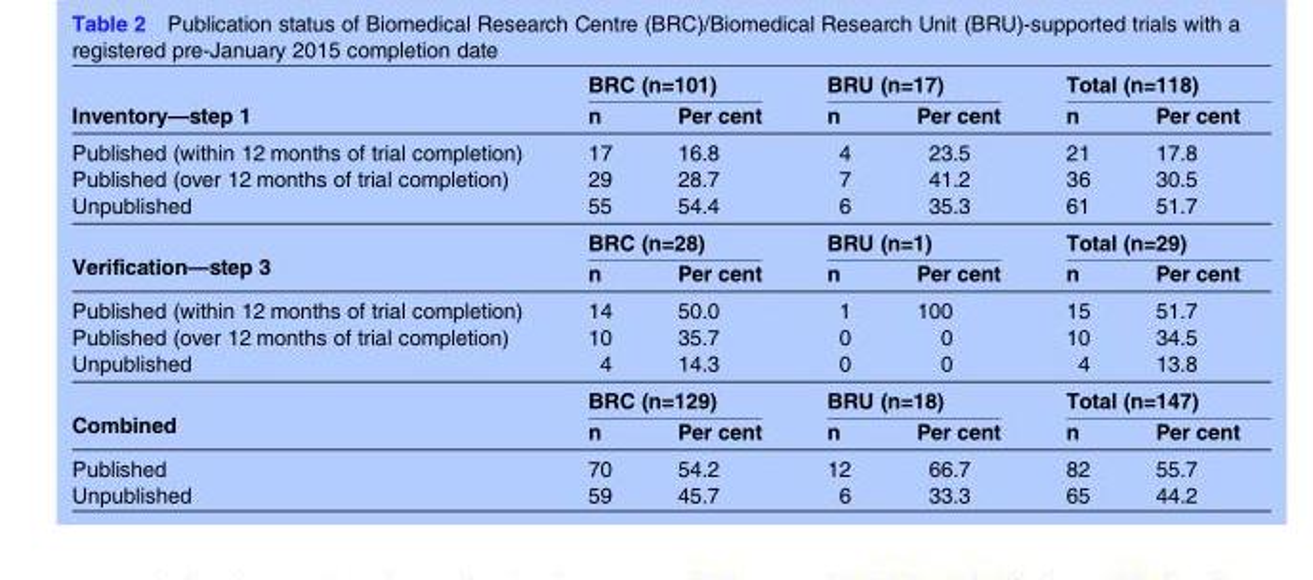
<table><thead><tr><td rowspan="2">Inventory—step 1</td><td colspan="2">BRC (n=101)</td><td colspan="2">BRU (n=17)</td><td colspan="2">Total (n=118)</td></tr><tr><td>n</td><td>Per cent</td><td>n</td><td>Per cent</td><td>n</td><td>Per cent</td></tr></thead><tbody><tr><td>Published (within 12 months of trial completion)</td><td>17</td><td>16.8</td><td>4</td><td>23.5</td><td>21</td><td>17.8</td></tr><tr><td>Published (over 12 months of trial completion)</td><td>29</td><td>28.7</td><td>7</td><td>41.2</td><td>36</td><td>30.5</td></tr><tr><td>Unpublished</td><td>55</td><td>54.4</td><td>6</td><td>35.3</td><td>61</td><td>51.7</td></tr><tr><td rowspan="2">Verification—step 3</td><td colspan="2">BRC (n=28)</td><td colspan="2">BRU (n=1)</td><td colspan="2">Total (n=29)</td></tr><tr><td>n</td><td>Per cent</td><td>n</td><td>Per cent</td><td>n</td><td>Per cent</td></tr><tr><td>Published (within 12 months of trial completion)</td><td>14</td><td>50.0</td><td>1</td><td>100</td><td>15</td><td>51.7</td></tr><tr><td>Published (over 12 months of trial completion)</td><td>10</td><td>35.7</td><td>0</td><td>0</td><td>10</td><td>34.5</td></tr><tr><td>Unpublished</td><td>4</td><td>14.3</td><td>0</td><td>0</td><td>4</td><td>13.8</td></tr><tr><td rowspan="2">Combined</td><td colspan="2">BRC (n=129)</td><td colspan="2">BRU (n=18)</td><td colspan="2">Total (n=147)</td></tr><tr><td>n</td><td>Per cent</td><td>n</td><td>Per cent</td><td>n</td><td>Per cent</td></tr><tr><td>Published</td><td>70</td><td>54.2</td><td>12</td><td>66.7</td><td>82</td><td>55.7</td></tr><tr><td>Unpublished</td><td>59</td><td>45.7</td><td>6</td><td>33.3</td><td>65</td><td>44.2</td></tr></tbody></table>